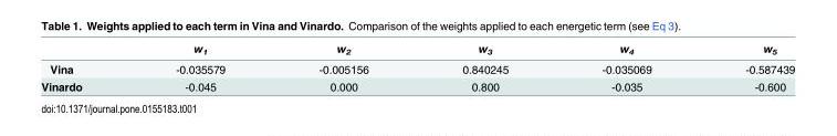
<table><thead><tr><td></td><td>w<sub>1</sub></td><td>w<sub>2</sub></td><td>w<sub>3</sub></td><td>w<sub>4</sub></td><td>w<sub>5</sub></td></tr></thead><tbody><tr><td>Vina</td><td>-0.035579</td><td>-0.005156</td><td>0.840245</td><td>-0.035069</td><td>-0.587439</td></tr><tr><td>Vinardo</td><td>-0.045</td><td>0.000</td><td>0.800</td><td>-0.035</td><td>-0.600</td></tr></tbody></table>